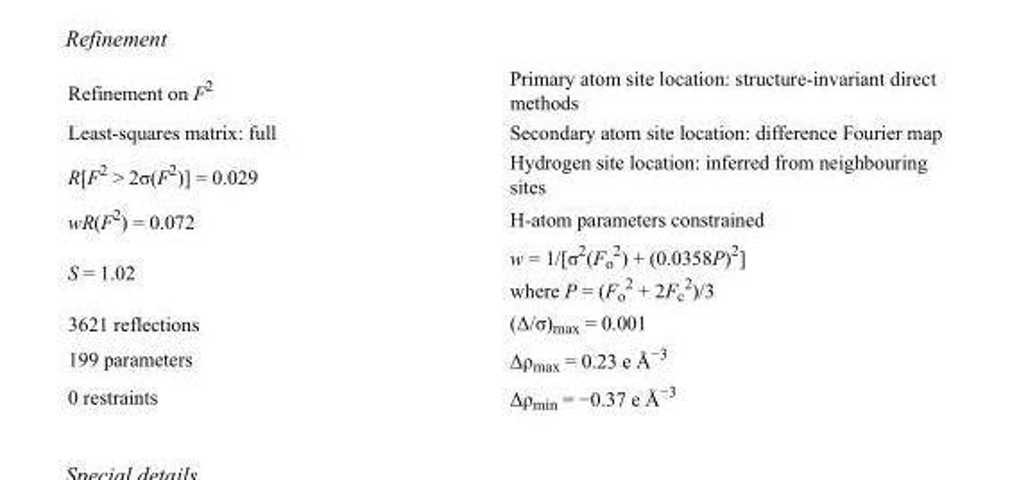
<table><tbody><tr><td>Refinement on F<sup>2</sup></td><td>Primary atom site location: structure-invariant direct methods</td></tr><tr><td>Least-squares matrix: full</td><td>Secondary atom site location: difference Fourier map</td></tr><tr><td>R[F<sup>2</sup> &gt; 2σ(F<sup>2</sup>)] = 0.029</td><td>Hydrogen site location: inferred from neighbouring sites</td></tr><tr><td>wR(F<sup>2</sup>) = 0.072</td><td>H-atom parameters constrained</td></tr><tr><td>S = 1.02</td><td>w = 1/[σ<sup>2</sup>(F<sub>o</sub> <sup>2</sup>) + (0.0358P)<sup>2</sup>] where P = (F<sub>o</sub> <sup>2</sup> + 2F<sub>c</sub> <sup>2</sup>)/3</td></tr><tr><td>3621 reflections</td><td>(Δ/σ)<sub>max</sub> = 0.001</td></tr><tr><td>199 parameters</td><td>Δρ<sub>max</sub> = 0.23 e Å<sup>−3</sup></td></tr><tr><td>0 restraints</td><td>Δρ<sub>min</sub> = −0.37 e Å<sup>−3</sup></td></tr></tbody></table>